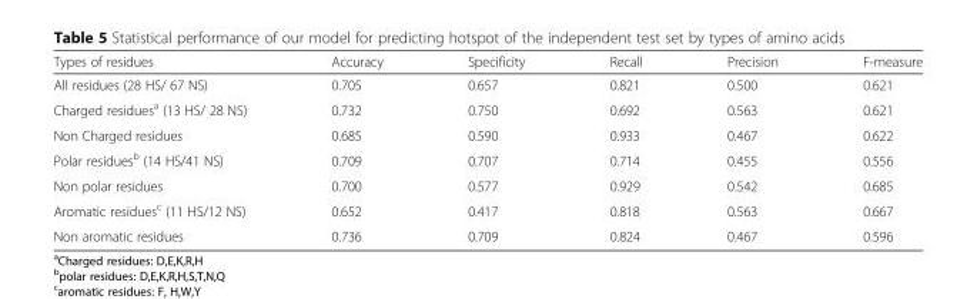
<table><thead><tr><td>Types of residues</td><td>Accuracy</td><td>Specificity</td><td>Recall</td><td>Precision</td><td>F-measure</td></tr></thead><tbody><tr><td>All residues (28 HS/ 67 NS)</td><td>0.705</td><td>0.657</td><td>0.821</td><td>0.500</td><td>0.621</td></tr><tr><td>Charged residues<sup>a</sup> (13 HS/ 28 NS)</td><td>0.732</td><td>0.750</td><td>0.692</td><td>0.563</td><td>0.621</td></tr><tr><td>Non Charged residues</td><td>0.685</td><td>0.590</td><td>0.933</td><td>0.467</td><td>0.622</td></tr><tr><td>Polar residues<sup>b</sup> (14 HS/41 NS)</td><td>0.709</td><td>0.707</td><td>0.714</td><td>0.455</td><td>0.556</td></tr><tr><td>Non polar residues</td><td>0.700</td><td>0.577</td><td>0.929</td><td>0.542</td><td>0.685</td></tr><tr><td>Aromatic residues<sup>c</sup> (11 HS/12 NS)</td><td>0.652</td><td>0.417</td><td>0.818</td><td>0.563</td><td>0.667</td></tr><tr><td>Non aromatic residues</td><td>0.736</td><td>0.709</td><td>0.824</td><td>0.467</td><td>0.596</td></tr></tbody></table>